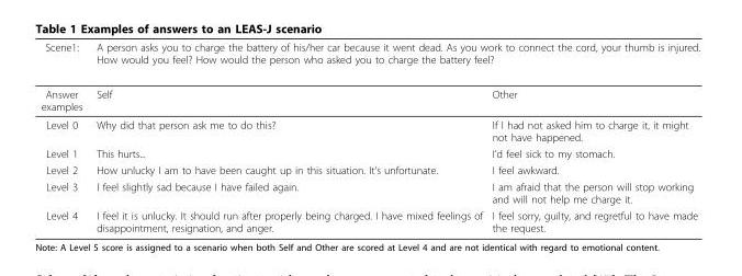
<table><thead><tr><td rowspan="2">Scene1: Answer examples</td><td colspan="2">A person asks you to charge the battery of his/her car because it went dead. As you work to connect the cord, your thumb is injured. How would you feel? How would the person who asked you to charge the battery feel?</td></tr><tr><td>Self</td><td>Other</td></tr></thead><tbody><tr><td>Level 0</td><td>Why did that person ask me to do this?</td><td>If I had not asked him to charge it, it might not have happened.</td></tr><tr><td>Level 1</td><td>This hurts...</td><td>I’d feel sick to my stomach.</td></tr><tr><td>Level 2</td><td>How unlucky I am to have been caught up in this situation. It’s unfortunate.</td><td>I feel awkward.</td></tr><tr><td>Level 3</td><td>I feel slightly sad because I have failed again.</td><td>I am afraid that the person will stop working and will not help me charge it.</td></tr><tr><td>Level 4</td><td>I feel it is unlucky. It should run after properly being charged. I have mixed feelings of disappointment, resignation, and anger.</td><td>I feel sorry, guilty, and regretful to have made the request.</td></tr></tbody></table>